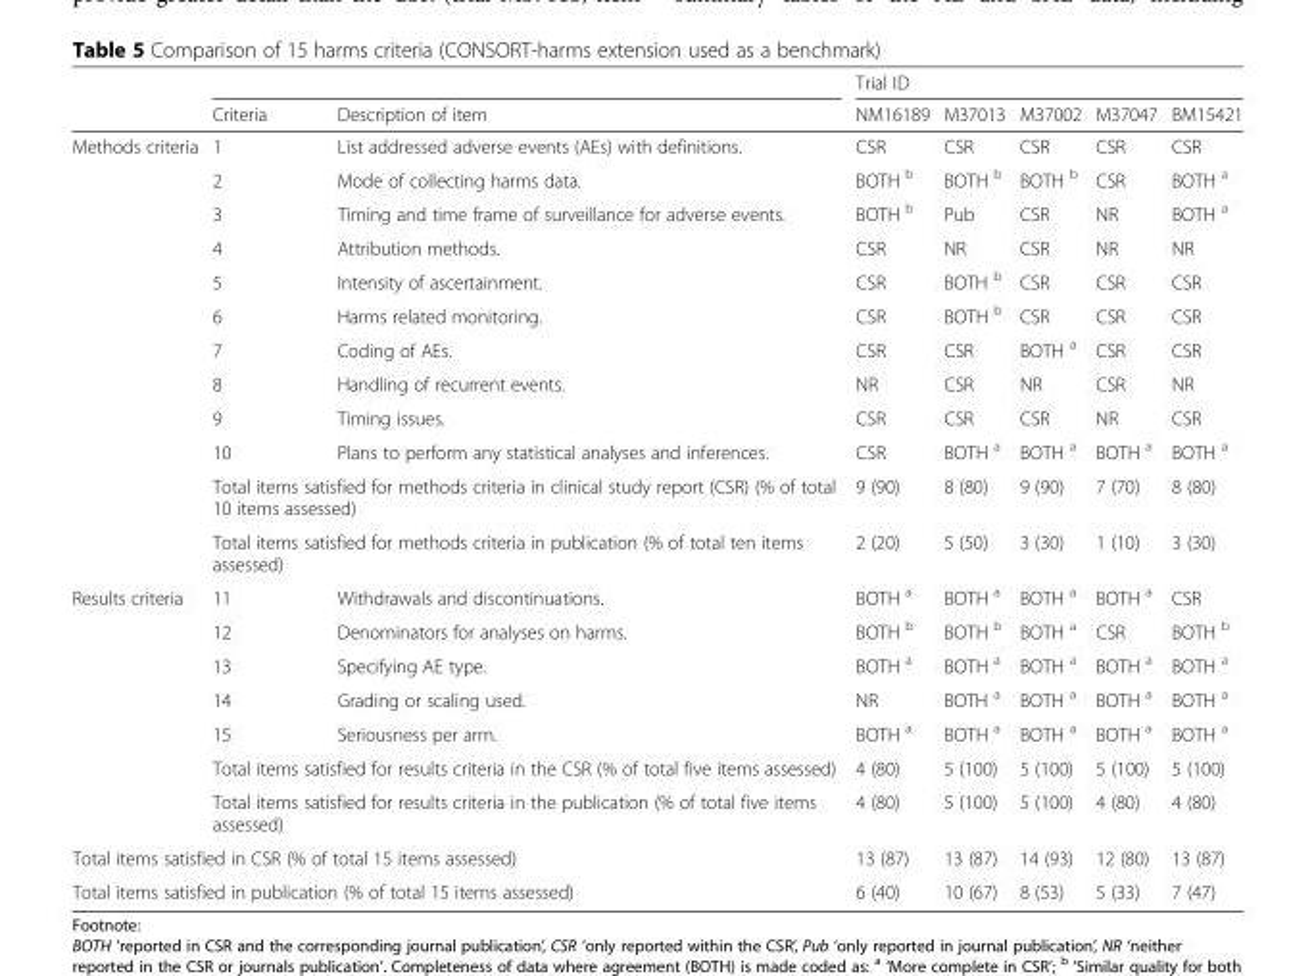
<table><thead><tr><td rowspan="2"></td><td rowspan="2">Criteria</td><td rowspan="2">Description of item</td><td colspan="5">Trial ID</td></tr><tr><td>NM16189</td><td>M37013</td><td>M37002</td><td>M37047</td><td>BM15421</td></tr></thead><tbody><tr><td rowspan="12">Methods criteria</td><td>1</td><td>List addressed adverse events (AEs) with definitions.</td><td>CSR</td><td>CSR</td><td>CSR</td><td>CSR</td><td>CSR</td></tr><tr><td>2</td><td>Mode of collecting harms data.</td><td>BOTH <sup>b</sup></td><td>BOTH <sup>b</sup></td><td>BOTH <sup>b</sup></td><td>CSR</td><td>BOTH <sup>a</sup></td></tr><tr><td>3</td><td>Timing and time frame of surveillance for adverse events.</td><td>BOTH <sup>b</sup></td><td>Pub</td><td>CSR</td><td>NR</td><td>BOTH <sup>a</sup></td></tr><tr><td>4</td><td>Attribution methods.</td><td>CSR</td><td>NR</td><td>CSR</td><td>NR</td><td>NR</td></tr><tr><td>5</td><td>Intensity of ascertainment.</td><td>CSR</td><td>BOTH <sup>b</sup></td><td>CSR</td><td>CSR</td><td>CSR</td></tr><tr><td>6</td><td>Harms related monitoring.</td><td>CSR</td><td>BOTH <sup>b</sup></td><td>CSR</td><td>CSR</td><td>CSR</td></tr><tr><td>7</td><td>Coding of AEs.</td><td>CSR</td><td>CSR</td><td>BOTH <sup>a</sup></td><td>CSR</td><td>CSR</td></tr><tr><td>8</td><td>Handling of recurrent events.</td><td>NR</td><td>CSR</td><td>NR</td><td>CSR</td><td>NR</td></tr><tr><td>9</td><td>Timing issues.</td><td>CSR</td><td>CSR</td><td>CSR</td><td>NR</td><td>CSR</td></tr><tr><td>10</td><td>Plans to perform any statistical analyses and inferences.</td><td>CSR</td><td>BOTH <sup>a</sup></td><td>BOTH <sup>a</sup></td><td>BOTH <sup>a</sup></td><td>BOTH <sup>a</sup></td></tr><tr><td colspan="2">Total items satisfied for methods criteria in clinical study report (CSR) (% of total 10 items assessed)</td><td>9 (90)</td><td>8 (80)</td><td>9 (90)</td><td>7 (70)</td><td>8 (80)</td></tr><tr><td colspan="2">Total items satisfied for methods criteria in publication (% of total ten items assessed)</td><td>2 (20)</td><td>5 (50)</td><td>3 (30)</td><td>1 (10)</td><td>3 (30)</td></tr><tr><td rowspan="7">Results criteria</td><td>11</td><td>Withdrawals and discontinuations.</td><td>BOTH <sup>a</sup></td><td>BOTH <sup>a</sup></td><td>BOTH <sup>a</sup></td><td>BOTH <sup>a</sup></td><td>CSR</td></tr><tr><td>12</td><td>Denominators for analyses on harms.</td><td>BOTH <sup>b</sup></td><td>BOTH <sup>b</sup></td><td>BOTH <sup>a</sup></td><td>CSR</td><td>BOTH <sup>b</sup></td></tr><tr><td>13</td><td>Specifying AE type.</td><td>BOTH <sup>a</sup></td><td>BOTH <sup>a</sup></td><td>BOTH <sup>a</sup></td><td>BOTH <sup>a</sup></td><td>BOTH <sup>a</sup></td></tr><tr><td>14</td><td>Grading or scaling used.</td><td>NR</td><td>BOTH <sup>a</sup></td><td>BOTH <sup>a</sup></td><td>BOTH <sup>a</sup></td><td>BOTH <sup>a</sup></td></tr><tr><td>15</td><td>Seriousness per arm.</td><td>BOTH <sup>a</sup></td><td>BOTH <sup>a</sup></td><td>BOTH <sup>a</sup></td><td>BOTH <sup>a</sup></td><td>BOTH <sup>a</sup></td></tr><tr><td colspan="2">Total items satisfied for results criteria in the CSR (% of total five items assessed)</td><td>4 (80)</td><td>5 (100)</td><td>5 (100)</td><td>5 (100)</td><td>5 (100)</td></tr><tr><td colspan="2">Total items satisfied for results criteria in the publication (% of total five items assessed)</td><td>4 (80)</td><td>5 (100)</td><td>5 (100)</td><td>4 (80)</td><td>4 (80)</td></tr><tr><td colspan="3">Total items satisfied in CSR (% of total 15 items assessed)</td><td>13 (87)</td><td>13 (87)</td><td>14 (93)</td><td>12 (80)</td><td>13 (87)</td></tr><tr><td colspan="3">Total items satisfied in publication (% of total 15 items assessed)</td><td>6 (40)</td><td>10 (67)</td><td>8 (53)</td><td>5 (33)</td><td>7 (47)</td></tr></tbody></table>